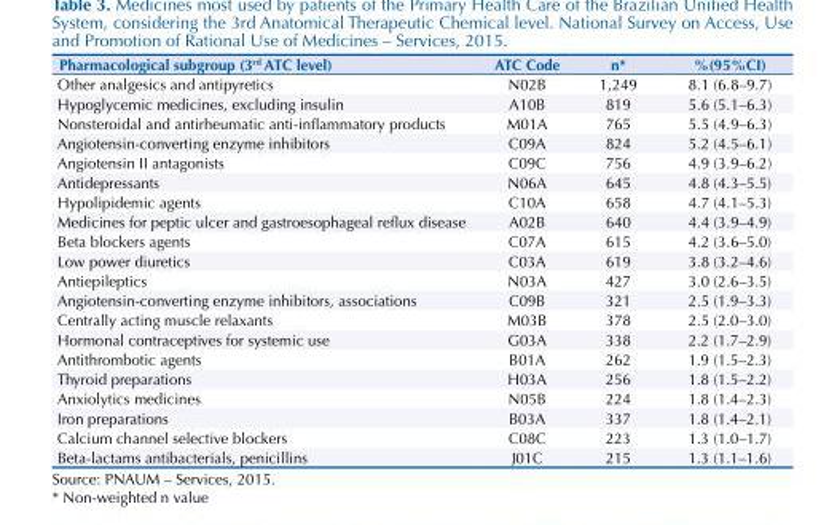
<table><thead><tr><td>Pharmacological subgroup (3<sup>rd</sup> ATC level)</td><td>ATC Code</td><td>n*</td><td>%(95%CI)</td></tr></thead><tbody><tr><td>Other analgesics and antipyretics</td><td>N02B</td><td>1,249</td><td>8.1 (6.8–9.7)</td></tr><tr><td>Hypoglycemic medicines, excluding insulin</td><td>A10B</td><td>819</td><td>5.6 (5.1–6.3)</td></tr><tr><td>Nonsteroidal and antirheumatic anti-inflammatory products</td><td>M01A</td><td>765</td><td>5.5 (4.9–6.3)</td></tr><tr><td>Angiotensin-converting enzyme inhibitors</td><td>C09A</td><td>824</td><td>5.2 (4.5–6.1)</td></tr><tr><td>Angiotensin II antagonists</td><td>C09C</td><td>756</td><td>4.9 (3.9–6.2)</td></tr><tr><td>Antidepressants</td><td>N06A</td><td>645</td><td>4.8 (4.3–5.5)</td></tr><tr><td>Hypolipidemic agents</td><td>C10A</td><td>658</td><td>4.7 (4.1–5.3)</td></tr><tr><td>Medicines for peptic ulcer and gastroesophageal reflux disease</td><td>A02B</td><td>640</td><td>4.4 (3.9–4.9)</td></tr><tr><td>Beta blockers agents</td><td>C07A</td><td>615</td><td>4.2 (3.6–5.0)</td></tr><tr><td>Low power diuretics</td><td>C03A</td><td>619</td><td>3.8 (3.2–4.6)</td></tr><tr><td>Antiepileptics</td><td>N03A</td><td>427</td><td>3.0 (2.6–3.5)</td></tr><tr><td>Angiotensin-converting enzyme inhibitors, associations</td><td>C09B</td><td>321</td><td>2.5 (1.9–3.3)</td></tr><tr><td>Centrally acting muscle relaxants</td><td>M03B</td><td>378</td><td>2.5 (2.0–3.0)</td></tr><tr><td>Hormonal contraceptives for systemic use</td><td>G03A</td><td>338</td><td>2.2 (1.7–2.9)</td></tr><tr><td>Antithrombotic agents</td><td>B01A</td><td>262</td><td>1.9 (1.5–2.3)</td></tr><tr><td>Thyroid preparations</td><td>H03A</td><td>256</td><td>1.8 (1.5–2.2)</td></tr><tr><td>Anxiolytics medicines</td><td>N05B</td><td>224</td><td>1.8 (1.4–2.3)</td></tr><tr><td>Iron preparations</td><td>B03A</td><td>337</td><td>1.8 (1.4–2.1)</td></tr><tr><td>Calcium channel selective blockers</td><td>C08C</td><td>223</td><td>1.3 (1.0–1.7)</td></tr><tr><td>Beta-lactams antibacterials, penicillins</td><td>J01C</td><td>215</td><td>1.3 (1.1–1.6)</td></tr></tbody></table>